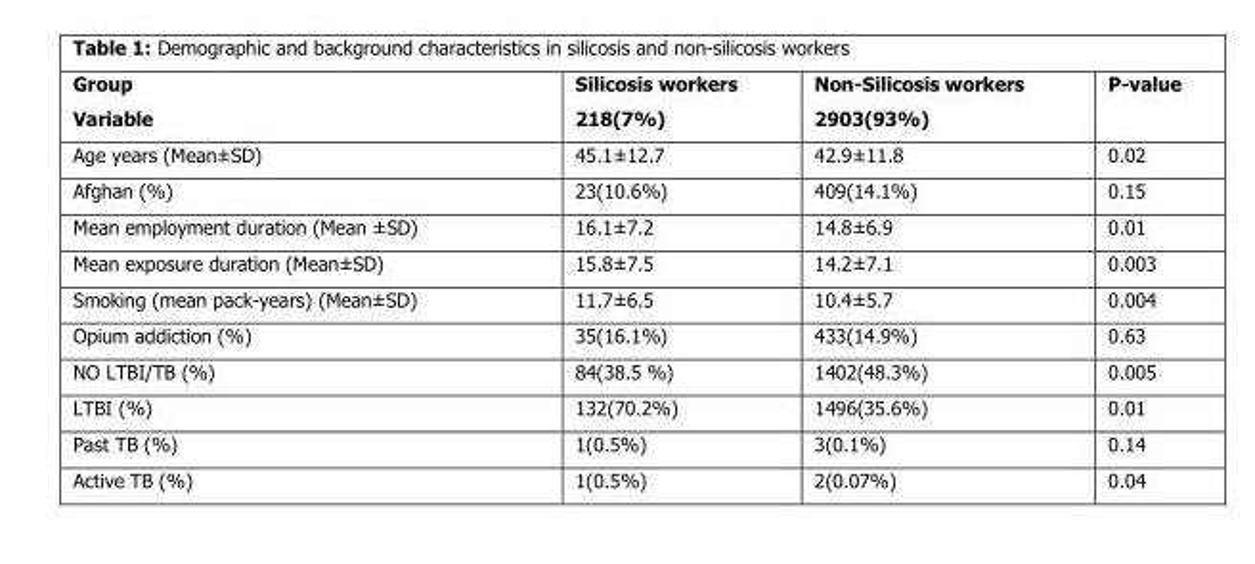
<table><thead><tr><td>Group Variable</td><td>Silicosis workers 218(7%)</td><td>Non-Silicosis workers 2903(93%)</td><td>P-value</td></tr></thead><tbody><tr><td>Age years (Mean±SD)</td><td>45.1±12.7</td><td>42.9±11.8</td><td>0.02</td></tr><tr><td>Afghan (%)</td><td>23(10.6%)</td><td>409(14.1%)</td><td>0.15</td></tr><tr><td>Mean employment duration (Mean ±SD)</td><td>16.1±7.2</td><td>14.8±6.9</td><td>0.01</td></tr><tr><td>Mean exposure duration (Mean±SD)</td><td>15.8±7.5</td><td>14.2±7.1</td><td>0.003</td></tr><tr><td>Smoking (mean pack-years) (Mean±SD)</td><td>11.7±6.5</td><td>10.4±5.7</td><td>0.004</td></tr><tr><td>Opium addiction (%)</td><td>35(16.1%)</td><td>433(14.9%)</td><td>0.63</td></tr><tr><td>NO LTBI/TB (%)</td><td>84(38.5 %)</td><td>1402(48.3%)</td><td>0.005</td></tr><tr><td>LTBI (%)</td><td>132(70.2%)</td><td>1496(35.6%)</td><td>0.01</td></tr><tr><td>Past TB (%)</td><td>1(0.5%)</td><td>3(0.1%)</td><td>0.14</td></tr><tr><td>Active TB (%)</td><td>1(0.5%)</td><td>2(0.07%)</td><td>0.04</td></tr></tbody></table>